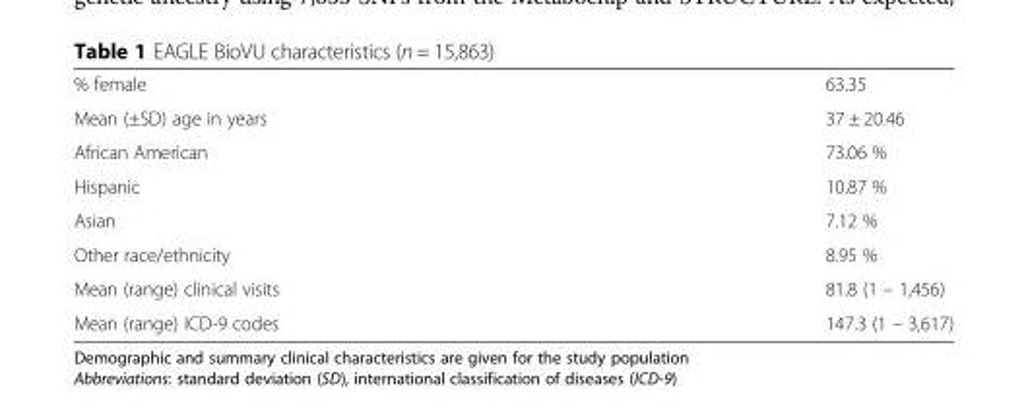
<table><tbody><tr><td>% female</td><td>63.35</td></tr><tr><td>Mean (±SD) age in years</td><td>37 ± 20.46</td></tr><tr><td>African American</td><td>73.06 %</td></tr><tr><td>Hispanic</td><td>10.87 %</td></tr><tr><td>Asian</td><td>7.12 %</td></tr><tr><td>Other race/ethnicity</td><td>8.95 %</td></tr><tr><td>Mean (range) clinical visits</td><td>81.8 (1 – 1,456)</td></tr><tr><td>Mean (range) ICD-9 codes</td><td>147.3 (1 – 3,617)</td></tr></tbody></table>